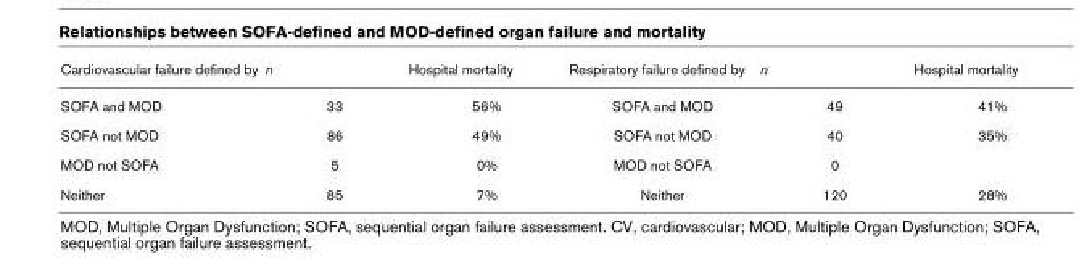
<table><thead><tr><td>Cardiovascular failure defined by</td><td>n</td><td>Hospital mortality</td><td>Respiratory failure defined by</td><td>n</td><td>Hospital mortality</td></tr></thead><tbody><tr><td>SOFA and MOD</td><td>33</td><td>56%</td><td>SOFA and MOD</td><td>49</td><td>41%</td></tr><tr><td>SOFA not MOD</td><td>86</td><td>49%</td><td>SOFA not MOD</td><td>40</td><td>35%</td></tr><tr><td>MOD not SOFA</td><td>5</td><td>0%</td><td>MOD not SOFA</td><td>0</td><td></td></tr><tr><td>Neither</td><td>85</td><td>7%</td><td>Neither</td><td>120</td><td>28%</td></tr></tbody></table>